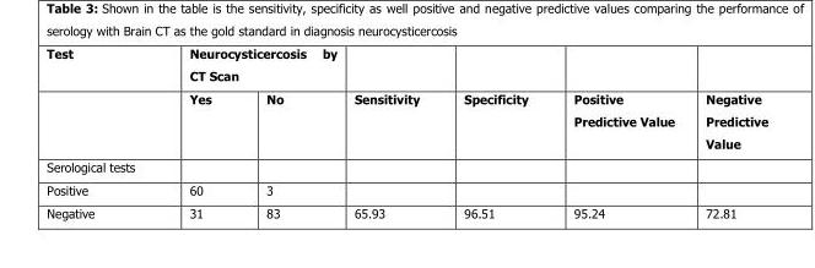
<table><thead><tr><td rowspan="2">Test</td><td colspan="2">Neurocysticercosis by CT Scan</td><td rowspan="2">Sensitivity</td><td rowspan="2">Specificity</td><td rowspan="2">Positive Predictive Value</td><td rowspan="2">Negative Predictive Value</td></tr><tr><td>Yes</td><td>No</td></tr></thead><tbody><tr><td colspan="7">Serological tests</td></tr><tr><td>Positive</td><td>60</td><td>3</td><td></td><td></td><td></td><td></td></tr><tr><td>Negative</td><td>31</td><td>83</td><td>65.93</td><td>96.51</td><td>95.24</td><td>72.81</td></tr></tbody></table>